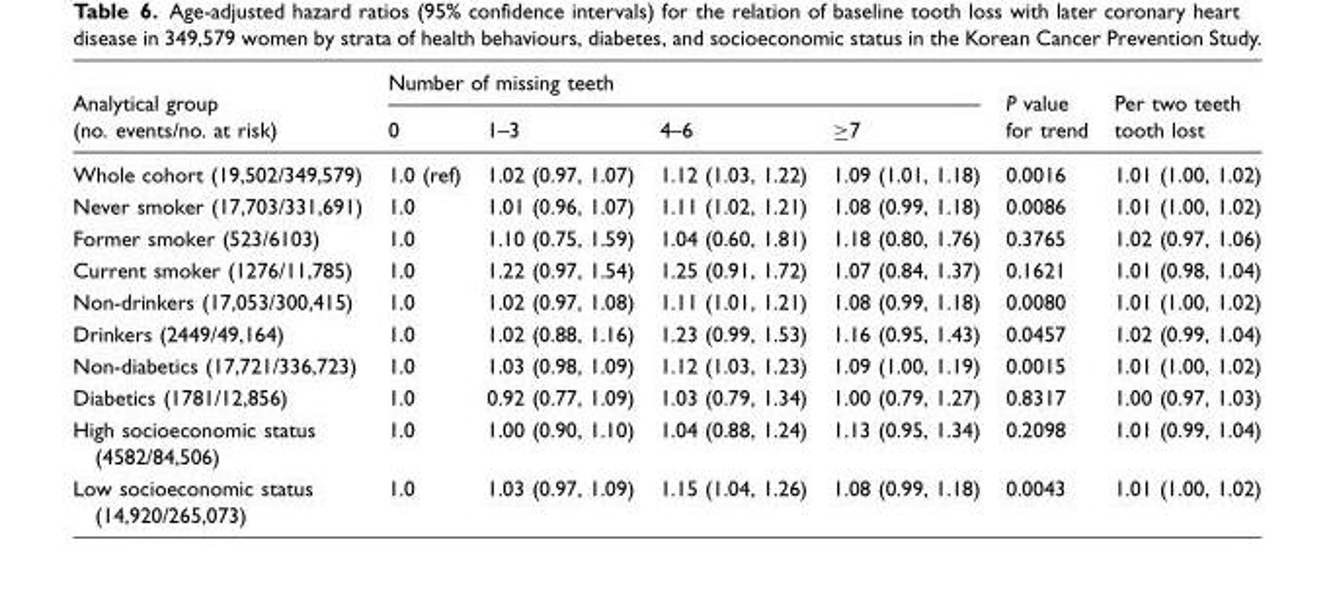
<table><thead><tr><td rowspan="2">Analytical group (no. events/no. at risk)</td><td colspan="4">Number of missing teeth</td><td rowspan="2">P value for trend</td><td rowspan="2">Per two teeth tooth lost</td></tr><tr><td>0</td><td>1–3</td><td>4–6</td><td>≥7</td></tr></thead><tbody><tr><td>Whole cohort (19,502/349,579)</td><td>1.0 (ref)</td><td>1.02 (0.97, 1.07)</td><td>1.12 (1.03, 1.22)</td><td>1.09 (1.01, 1.18)</td><td>0.0016</td><td>1.01 (1.00, 1.02)</td></tr><tr><td>Never smoker (17,703/331,691)</td><td>1.0</td><td>1.01 (0.96, 1.07)</td><td>1.11 (1.02, 1.21)</td><td>1.08 (0.99, 1.18)</td><td>0.0086</td><td>1.01 (1.00, 1.02)</td></tr><tr><td>Former smoker (523/6103)</td><td>1.0</td><td>1.10 (0.75, 1.59)</td><td>1.04 (0.60, 1.81)</td><td>1.18 (0.80, 1.76)</td><td>0.3765</td><td>1.02 (0.97, 1.06)</td></tr><tr><td>Current smoker (1276/11,785)</td><td>1.0</td><td>1.22 (0.97, 1.54)</td><td>1.25 (0.91, 1.72)</td><td>1.07 (0.84, 1.37)</td><td>0.1621</td><td>1.01 (0.98, 1.04)</td></tr><tr><td>Non-drinkers (17,053/300,415)</td><td>1.0</td><td>1.02 (0.97, 1.08)</td><td>1.11 (1.01, 1.21)</td><td>1.08 (0.99, 1.18)</td><td>0.0080</td><td>1.01 (1.00, 1.02)</td></tr><tr><td>Drinkers (2449/49,164)</td><td>1.0</td><td>1.02 (0.88, 1.16)</td><td>1.23 (0.99, 1.53)</td><td>1.16 (0.95, 1.43)</td><td>0.0457</td><td>1.02 (0.99, 1.04)</td></tr><tr><td>Non-diabetics (17,721/336,723)</td><td>1.0</td><td>1.03 (0.98, 1.09)</td><td>1.12 (1.03, 1.23)</td><td>1.09 (1.00, 1.19)</td><td>0.0015</td><td>1.01 (1.00, 1.02)</td></tr><tr><td>Diabetics (1781/12,856)</td><td>1.0</td><td>0.92 (0.77, 1.09)</td><td>1.03 (0.79, 1.34)</td><td>1.00 (0.79, 1.27)</td><td>0.8317</td><td>1.00 (0.97, 1.03)</td></tr><tr><td>High socioeconomic status (4582/84,506)</td><td>1.0</td><td>1.00 (0.90, 1.10)</td><td>1.04 (0.88, 1.24)</td><td>1.13 (0.95, 1.34)</td><td>0.2098</td><td>1.01 (0.99, 1.04)</td></tr><tr><td>Low socioeconomic status (14,920/265,073)</td><td>1.0</td><td>1.03 (0.97, 1.09)</td><td>1.15 (1.04, 1.26)</td><td>1.08 (0.99, 1.18)</td><td>0.0043</td><td>1.01 (1.00, 1.02)</td></tr></tbody></table>